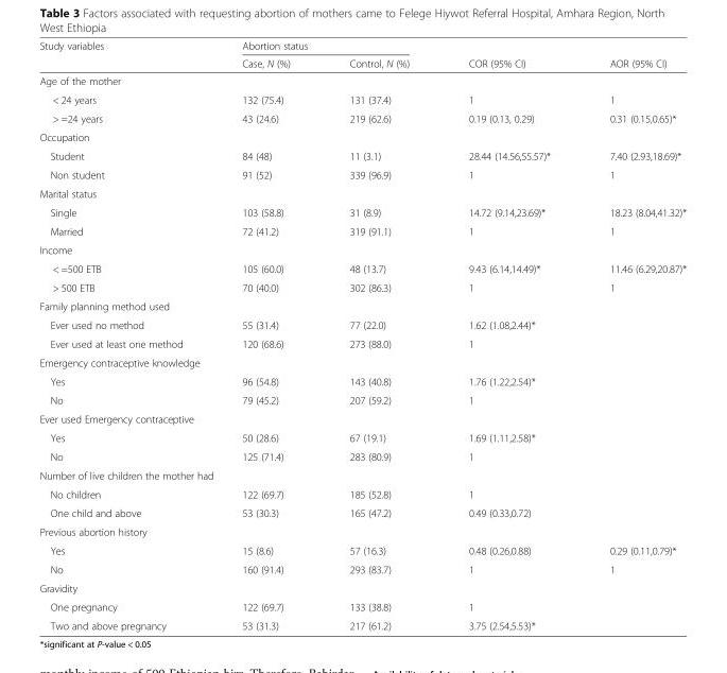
<table><thead><tr><td rowspan="2">Study variables</td><td colspan="2">Abortion status</td><td rowspan="2">COR (95% CI)</td><td rowspan="2">AOR (95% CI)</td></tr><tr><td>Case, N (%)</td><td>Control, N (%)</td></tr></thead><tbody><tr><td colspan="5">Age of the mother</td></tr><tr><td>&lt; 24 years</td><td>132 (75.4)</td><td>131 (37.4)</td><td>1</td><td>1</td></tr><tr><td>&gt; =24 years</td><td>43 (24.6)</td><td>219 (62.6)</td><td>0.19 (0.13, 0.29)</td><td>0.31 (0.15,0.65)*</td></tr><tr><td colspan="5">Occupation</td></tr><tr><td>Student</td><td>84 (48)</td><td>11 (3.1)</td><td>28.44 (14.56,55.57)*</td><td>7.40 (2.93,18.69)*</td></tr><tr><td>Non student</td><td>91 (52)</td><td>339 (96.9)</td><td>1</td><td>1</td></tr><tr><td colspan="5">Marital status</td></tr><tr><td>Single</td><td>103 (58.8)</td><td>31 (8.9)</td><td>14.72 (9.14,23.69)*</td><td>18.23 (8.04,41.32)*</td></tr><tr><td>Married</td><td>72 (41.2)</td><td>319 (91.1)</td><td>1</td><td>1</td></tr><tr><td colspan="5">Income</td></tr><tr><td>&lt; =500 ETB</td><td>105 (60.0)</td><td>48 (13.7)</td><td>9.43 (6.14,14.49)*</td><td>11.46 (6.29,20.87)*</td></tr><tr><td>&gt; 500 ETB</td><td>70 (40.0)</td><td>302 (86.3)</td><td>1</td><td>1</td></tr><tr><td colspan="5">Family planning method used</td></tr><tr><td>Ever used no method</td><td>55 (31.4)</td><td>77 (22.0)</td><td>1.62 (1.08,2.44)*</td><td></td></tr><tr><td>Ever used at least one method</td><td>120 (68.6)</td><td>273 (88.0)</td><td>1</td><td></td></tr><tr><td colspan="5">Emergency contraceptive knowledge</td></tr><tr><td>Yes</td><td>96 (54.8)</td><td>143 (40.8)</td><td>1.76 (1.22,2.54)*</td><td></td></tr><tr><td>No</td><td>79 (45.2)</td><td>207 (59.2)</td><td>1</td><td></td></tr><tr><td colspan="5">Ever used Emergency contraceptive</td></tr><tr><td>Yes</td><td>50 (28.6)</td><td>67 (19.1)</td><td>1.69 (1.11,2.58)*</td><td></td></tr><tr><td>No</td><td>125 (71.4)</td><td>283 (80.9)</td><td>1</td><td></td></tr><tr><td colspan="5">Number of live children the mother had</td></tr><tr><td>No children</td><td>122 (69.7)</td><td>185 (52.8)</td><td>1</td><td></td></tr><tr><td>One child and above</td><td>53 (30.3)</td><td>165 (47.2)</td><td>0.49 (0.33,0.72)</td><td></td></tr><tr><td colspan="5">Previous abortion history</td></tr><tr><td>Yes</td><td>15 (8.6)</td><td>57 (16.3)</td><td>0.48 (0.26,0.88)</td><td>0.29 (0.11,0.79)*</td></tr><tr><td>No</td><td>160 (91.4)</td><td>293 (83.7)</td><td>1</td><td>1</td></tr><tr><td colspan="5">Gravidity</td></tr><tr><td>One pregnancy</td><td>122 (69.7)</td><td>133 (38.8)</td><td>1</td><td></td></tr><tr><td>Two and above pregnancy</td><td>53 (31.3)</td><td>217 (61.2)</td><td>3.75 (2.54,5.53)*</td><td></td></tr></tbody></table>